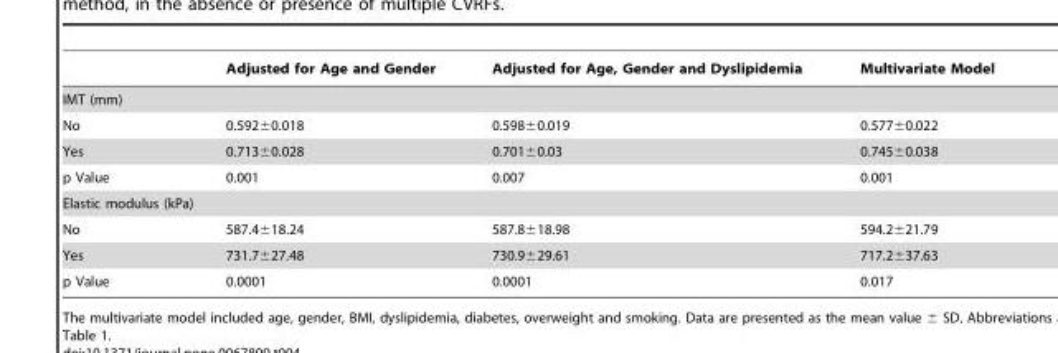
<table><thead><tr><td></td><td>Adjusted for Age and Gender</td><td>Adjusted for Age, Gender and Dyslipidemia</td><td>Multivariate Model</td></tr></thead><tbody><tr><td colspan="4">IMT (mm)</td></tr><tr><td>No</td><td>0.592±0.018</td><td>0.598±0.019</td><td>0.577±0.022</td></tr><tr><td>Yes</td><td>0.713±0.028</td><td>0.701±0.03</td><td>0.745±0.038</td></tr><tr><td>p Value</td><td>0.001</td><td>0.007</td><td>0.001</td></tr><tr><td colspan="4">Elastic modulus (kPa)</td></tr><tr><td>No</td><td>587.4±18.24</td><td>587.8±18.98</td><td>594.2±21.79</td></tr><tr><td>Yes</td><td>731.7±27.48</td><td>730.9±29.61</td><td>717.2±37.63</td></tr><tr><td>p Value</td><td>0.0001</td><td>0.0001</td><td>0.017</td></tr></tbody></table>